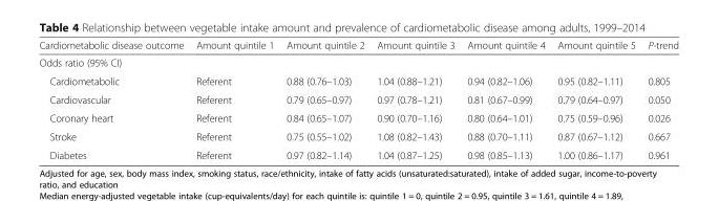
<table><thead><tr><td>Cardiometabolic disease outcome</td><td>Amount quintile 1</td><td>Amount quintile 2</td><td>Amount quintile 3</td><td>Amount quintile 4</td><td>Amount quintile 5</td><td>P-trend</td></tr></thead><tbody><tr><td colspan="7">Odds ratio (95% CI)</td></tr><tr><td>Cardiometabolic</td><td>Referent</td><td>0.88 (0.76–1.03)</td><td>1.04 (0.88–1.21)</td><td>0.94 (0.82–1.06)</td><td>0.95 (0.82–1.11)</td><td>0.805</td></tr><tr><td>Cardiovascular</td><td>Referent</td><td>0.79 (0.65–0.97)</td><td>0.97 (0.78–1.21)</td><td>0.81 (0.67–0.99)</td><td>0.79 (0.64–0.97)</td><td>0.050</td></tr><tr><td>Coronary heart</td><td>Referent</td><td>0.84 (0.65–1.07)</td><td>0.90 (0.70–1.16)</td><td>0.80 (0.64–1.01)</td><td>0.75 (0.59–0.96)</td><td>0.026</td></tr><tr><td>Stroke</td><td>Referent</td><td>0.75 (0.55–1.02)</td><td>1.08 (0.82–1.43)</td><td>0.88 (0.70–1.11)</td><td>0.87 (0.67–1.12)</td><td>0.667</td></tr><tr><td>Diabetes</td><td>Referent</td><td>0.97 (0.82–1.14)</td><td>1.04 (0.87–1.25)</td><td>0.98 (0.85–1.13)</td><td>1.00 (0.86–1.17)</td><td>0.961</td></tr></tbody></table>